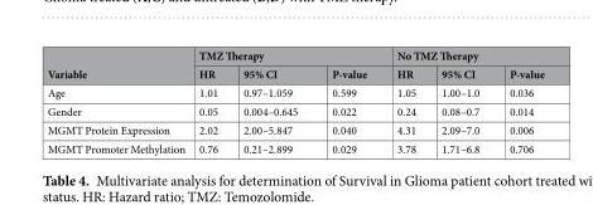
<table><thead><tr><td rowspan="2">Variable</td><td colspan="3">TMZ Therapy</td><td colspan="3">No TMZ Therapy</td></tr><tr><td>HR</td><td>95% CI</td><td>P-value</td><td>HR</td><td>95% CI</td><td>P-value</td></tr></thead><tbody><tr><td>Age</td><td>1.01</td><td>0.97–1.059</td><td>0.599</td><td>1.05</td><td>1.00–1.0</td><td>0.036</td></tr><tr><td>Gender</td><td>0.05</td><td>0.004–0.645</td><td>0.022</td><td>0.24</td><td>0.08–0.7</td><td>0.014</td></tr><tr><td>MGMT Protein Expression</td><td>2.02</td><td>2.00–5.847</td><td>0.040</td><td>4.31</td><td>2.09–7.0</td><td>0.006</td></tr><tr><td>MGMT Promoter Methylation</td><td>0.76</td><td>0.21–2.899</td><td>0.029</td><td>3.78</td><td>1.71–6.8</td><td>0.706</td></tr></tbody></table>